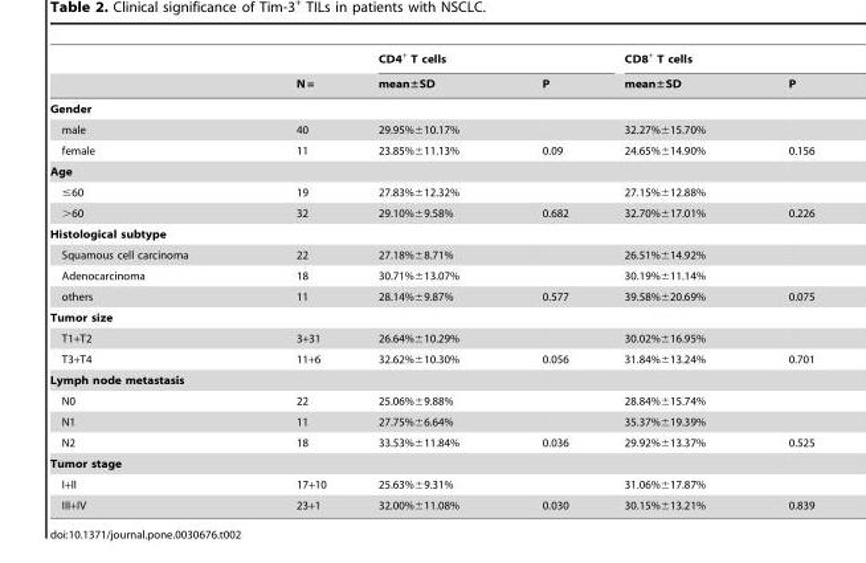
<table><thead><tr><td rowspan="2"></td><td rowspan="2">N =</td><td colspan="2">CD4<sup>+</sup> T cells</td><td colspan="2">CD8<sup>+</sup> T cells</td></tr><tr><td>mean±SD</td><td>P</td><td>mean±SD</td><td>P</td></tr></thead><tbody><tr><td colspan="6">Gender</td></tr><tr><td>male</td><td>40</td><td>29.95%±10.17%</td><td></td><td>32.27%±15.70%</td><td></td></tr><tr><td>female</td><td>11</td><td>23.85%±11.13%</td><td>0.09</td><td>24.65%±14.90%</td><td>0.156</td></tr><tr><td colspan="6">Age</td></tr><tr><td>≤60</td><td>19</td><td>27.83%±12.32%</td><td></td><td>27.15%±12.88%</td><td></td></tr><tr><td>&gt;60</td><td>32</td><td>29.10%±9.58%</td><td>0.682</td><td>32.70%±17.01%</td><td>0.226</td></tr><tr><td colspan="6">Histological subtype</td></tr><tr><td>Squamous cell carcinoma</td><td>22</td><td>27.18%±8.71%</td><td></td><td>26.51%±14.92%</td><td></td></tr><tr><td>Adenocarcinoma</td><td>18</td><td>30.71%±13.07%</td><td></td><td>30.19%±11.14%</td><td></td></tr><tr><td>others</td><td>11</td><td>28.14%±9.87%</td><td>0.577</td><td>39.58%±20.69%</td><td>0.075</td></tr><tr><td colspan="6">Tumor size</td></tr><tr><td>T1+T2</td><td>3+31</td><td>26.64%±10.29%</td><td></td><td>30.02%±16.95%</td><td></td></tr><tr><td>T3+T4</td><td>11+6</td><td>32.62%±10.30%</td><td>0.056</td><td>31.84%±13.24%</td><td>0.701</td></tr><tr><td colspan="6">Lymph node metastasis</td></tr><tr><td>N0</td><td>22</td><td>25.06%±9.88%</td><td></td><td>28.84%±15.74%</td><td></td></tr><tr><td>N1</td><td>11</td><td>27.75%±6.64%</td><td></td><td>35.37%±19.39%</td><td></td></tr><tr><td>N2</td><td>18</td><td>33.53%±11.84%</td><td>0.036</td><td>29.92%±13.37%</td><td>0.525</td></tr><tr><td colspan="6">Tumor stage</td></tr><tr><td>I+II</td><td>17+10</td><td>25.63%±9.31%</td><td></td><td>31.06%±17.87%</td><td></td></tr><tr><td>III+IV</td><td>23+1</td><td>32.00%±11.08%</td><td>0.030</td><td>30.15%±13.21%</td><td>0.839</td></tr></tbody></table>